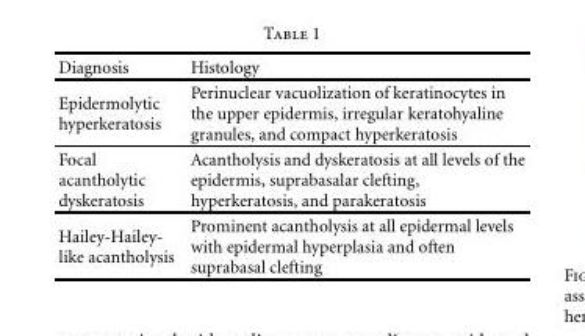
<table><thead><tr><td>Diagnosis</td><td>Histology</td></tr></thead><tbody><tr><td>Epidermolytic hyperkeratosis</td><td>Perinuclear vacuolization of keratinocytes in the upper epidermis, irregular keratohyaline granules, and compact hyperkeratosis</td></tr><tr><td>Focal acantholytic dyskeratosis</td><td>Acantholysis and dyskeratosis at all levels of the epidermis, suprabasalar clefting, hyperkeratosis, and parakeratosis</td></tr><tr><td>Hailey-Hailey- like acantholysis</td><td>Prominent acantholysis at all epidermal levels with epidermal hyperplasia and often suprabasal clefting</td></tr></tbody></table>